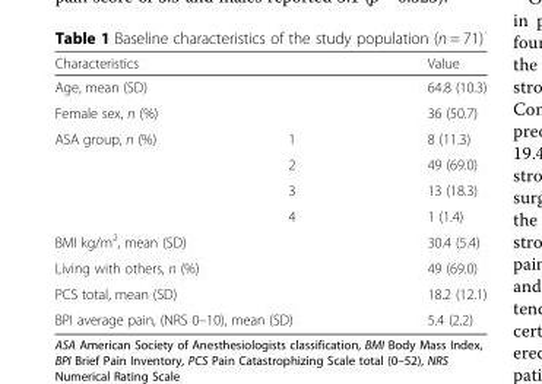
<table><thead><tr><td rowspan="3" colspan="2">Characteristics Age, mean (SD) Female sex, n (%)</td><td rowspan="4">Value 64.8 (10.3) 36 (50.7) 8 (11.3)</td></tr><tr></tr><tr></tr><tr><td>ASA group, n (%)</td><td>1</td></tr></thead><tbody><tr><td></td><td>2</td><td>49 (69.0)</td></tr><tr><td></td><td>3</td><td>13 (18.3)</td></tr><tr><td></td><td>4</td><td>1 (1.4)</td></tr><tr><td colspan="2">BMI kg/m<sup>2</sup>, mean (SD)</td><td>30.4 (5.4)</td></tr><tr><td colspan="2">Living with others, n (%)</td><td>49 (69.0)</td></tr><tr><td colspan="2">PCS total, mean (SD)</td><td>18.2 (12.1)</td></tr><tr><td colspan="2">BPI average pain, (NRS 0–10), mean (SD)</td><td>5.4 (2.2)</td></tr></tbody></table>